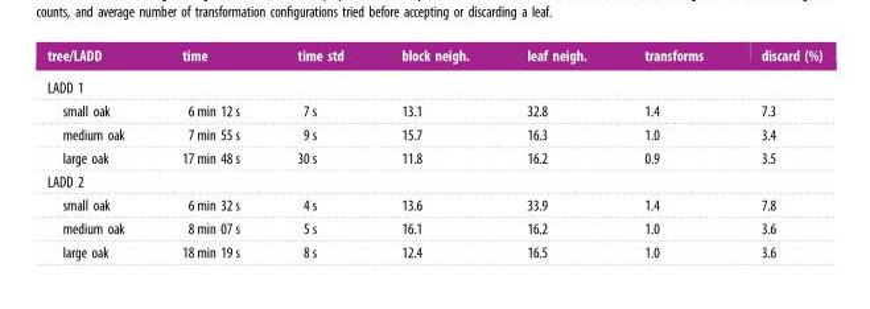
<table><thead><tr><td>tree/LADD</td><td>time</td><td>time std</td><td>block neigh.</td><td>leaf neigh.</td><td>transforms</td><td>discard (%)</td></tr></thead><tbody><tr><td colspan="7">LADD 1</td></tr><tr><td>small oak</td><td>6 min 12 s</td><td>7 s</td><td>13.1</td><td>32.8</td><td>1.4</td><td>7.3</td></tr><tr><td>medium oak</td><td>7 min 55 s</td><td>9 s</td><td>15.7</td><td>16.3</td><td>1.0</td><td>3.4</td></tr><tr><td>large oak</td><td>17 min 48 s</td><td>30 s</td><td>11.8</td><td>16.2</td><td>0.9</td><td>3.5</td></tr><tr><td colspan="7">LADD 2</td></tr><tr><td>small oak</td><td>6 min 32 s</td><td>4 s</td><td>13.6</td><td>33.9</td><td>1.4</td><td>7.8</td></tr><tr><td>medium oak</td><td>8 min 07 s</td><td>5 s</td><td>16.1</td><td>16.2</td><td>1.0</td><td>3.6</td></tr><tr><td>large oak</td><td>18 min 19 s</td><td>8 s</td><td>12.4</td><td>16.5</td><td>1.0</td><td>3.6</td></tr></tbody></table>